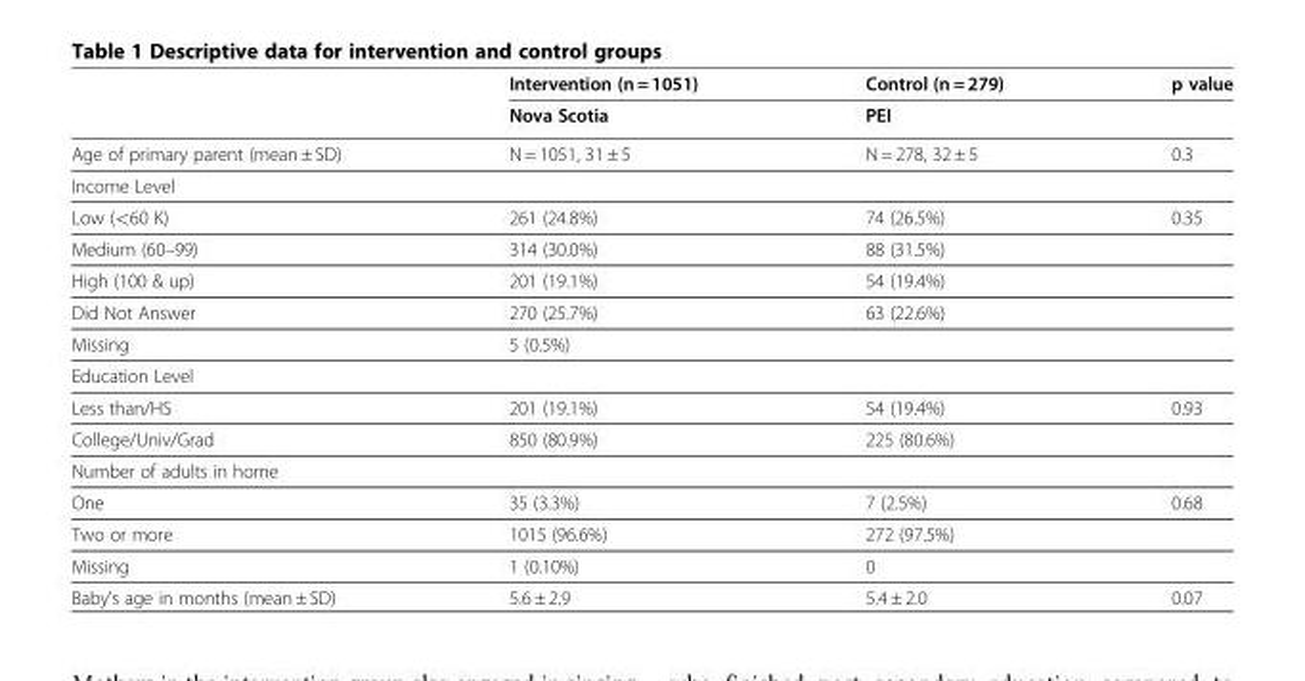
<table><thead><tr><td rowspan="2"></td><td rowspan="2">Intervention (n = 1051) Nova Scotia</td><td rowspan="2">Control (n = 279) PEI</td><td rowspan="2">p value</td></tr><tr></tr></thead><tbody><tr><td>Age of primary parent (mean ± SD)</td><td>N = 1051, 31 ± 5</td><td>N = 278, 32 ± 5</td><td>0.3</td></tr><tr><td colspan="4">Income Level</td></tr><tr><td>Low (&lt;60 K)</td><td>261 (24.8%)</td><td>74 (26.5%)</td><td>0.35</td></tr><tr><td>Medium (60–99)</td><td>314 (30.0%)</td><td>88 (31.5%)</td><td></td></tr><tr><td>High (100 &amp; up)</td><td>201 (19.1%)</td><td>54 (19.4%)</td><td></td></tr><tr><td>Did Not Answer</td><td>270 (25.7%)</td><td>63 (22.6%)</td><td></td></tr><tr><td>Missing</td><td>5 (0.5%)</td><td></td><td></td></tr><tr><td colspan="4">Education Level</td></tr><tr><td>Less than/HS</td><td>201 (19.1%)</td><td>54 (19.4%)</td><td>0.93</td></tr><tr><td>College/Univ/Grad</td><td>850 (80.9%)</td><td>225 (80.6%)</td><td></td></tr><tr><td colspan="4">Number of adults in home</td></tr><tr><td>One</td><td>35 (3.3%)</td><td>7 (2.5%)</td><td>0.68</td></tr><tr><td>Two or more</td><td>1015 (96.6%)</td><td>272 (97.5%)</td><td></td></tr><tr><td>Missing</td><td>1 (0.10%)</td><td>0</td><td></td></tr><tr><td>Baby’s age in months (mean ± SD)</td><td>5.6 ± 2.9</td><td>5.4 ± 2.0</td><td>0.07</td></tr></tbody></table>